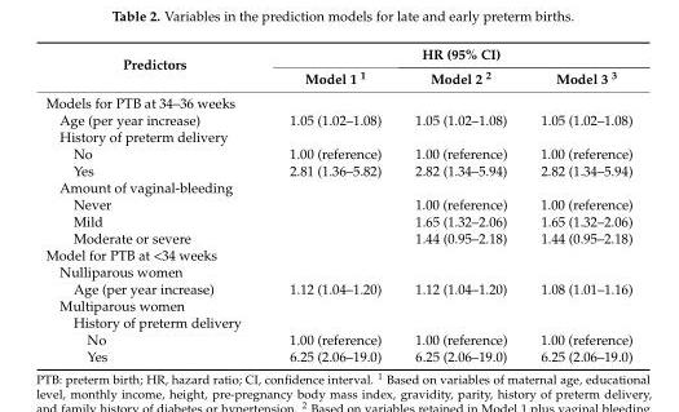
<table><thead><tr><td rowspan="2">Predictors</td><td colspan="3">HR (95% CI)</td></tr><tr><td>Model 1 <sup>1</sup></td><td>Model 2 <sup>2</sup></td><td>Model 3 <sup>3</sup></td></tr></thead><tbody><tr><td colspan="4">Models for PTB at 34–36 weeks</td></tr><tr><td>Age (per year increase)</td><td>1.05 (1.02–1.08)</td><td>1.05 (1.02–1.08)</td><td>1.05 (1.02–1.08)</td></tr><tr><td colspan="4">History of preterm delivery</td></tr><tr><td>No</td><td>1.00 (reference)</td><td>1.00 (reference)</td><td>1.00 (reference)</td></tr><tr><td>Yes</td><td>2.81 (1.36–5.82)</td><td>2.82 (1.34–5.94)</td><td>2.82 (1.34–5.94)</td></tr><tr><td colspan="4">Amount of vaginal-bleeding</td></tr><tr><td>Never</td><td></td><td>1.00 (reference)</td><td>1.00 (reference)</td></tr><tr><td>Mild</td><td></td><td>1.65 (1.32–2.06)</td><td>1.65 (1.32–2.06)</td></tr><tr><td>Moderate or severe</td><td></td><td>1.44 (0.95–2.18)</td><td>1.44 (0.95–2.18)</td></tr><tr><td colspan="4">Model for PTB at &lt;34 weeks</td></tr><tr><td colspan="4">Nulliparous women</td></tr><tr><td>Age (per year increase)</td><td>1.12 (1.04–1.20)</td><td>1.12 (1.04–1.20)</td><td>1.08 (1.01–1.16)</td></tr><tr><td colspan="4">Multiparous women</td></tr><tr><td colspan="4">History of preterm delivery</td></tr><tr><td>No</td><td>1.00 (reference)</td><td>1.00 (reference)</td><td>1.00 (reference)</td></tr><tr><td>Yes</td><td>6.25 (2.06–19.0)</td><td>6.25 (2.06–19.0)</td><td>6.25 (2.06–19.0)</td></tr></tbody></table>